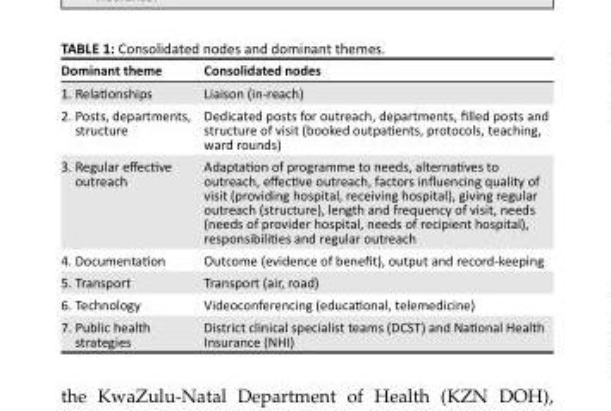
<table><thead><tr><td>Dominant theme</td><td>Consolidated nodes</td></tr></thead><tbody><tr><td>1. Relationships</td><td>Liaison (in-reach)</td></tr><tr><td>2. Posts, departments, structure</td><td>Dedicated posts for outreach, departments, filled posts and structure of visit (booked outpatients, protocols, teaching, ward rounds)</td></tr><tr><td>3. Regular effective outreach</td><td>Adaptation of programme to needs, alternatives to outreach, effective outreach, factors influencing quality of visit (providing hospital, receiving hospital), giving regular outreach (structure), length and frequency of visit, needs (needs of provider hospital, needs of recipient hospital), responsibilities and regular outreach</td></tr><tr><td>4. Documentation</td><td>Outcome (evidence of benefit), output and record-keeping</td></tr><tr><td>5. Transport</td><td>Transport (air, road)</td></tr><tr><td>6. Technology</td><td>Videoconferencing (educational, telemedicine)</td></tr><tr><td>7. Public health strategies</td><td>District clinical specialist teams (DCST) and National Health Insurance (NHI)</td></tr></tbody></table>